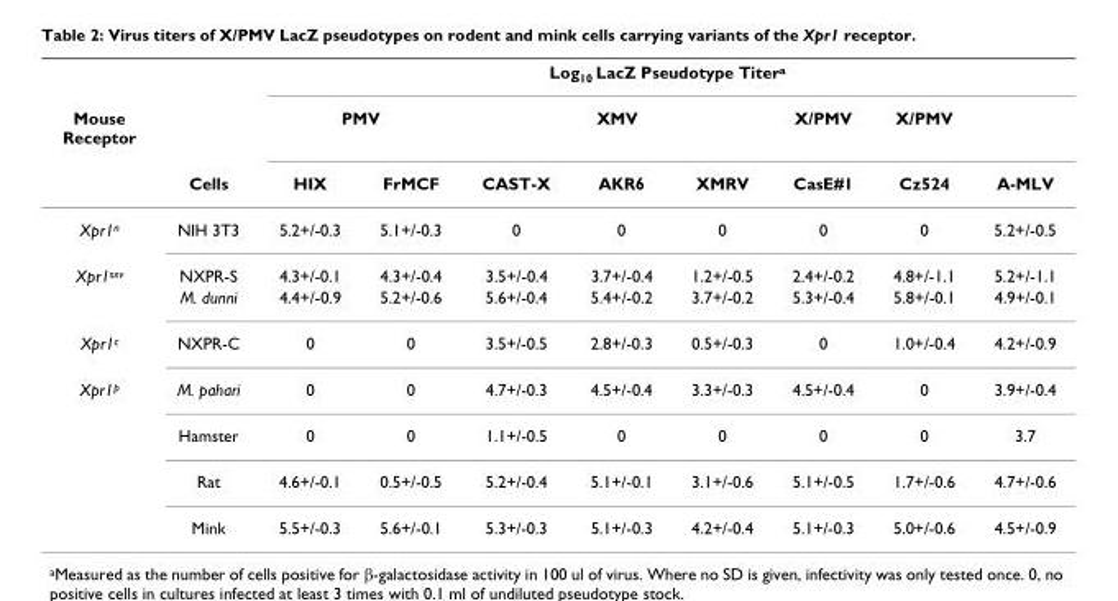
<table><thead><tr><td rowspan="3">Mouse Receptor</td><td rowspan="3">Cells</td><td colspan="8">Log<sub>10</sub> LacZ Pseudotype Titer<sup>a</sup></td></tr><tr><td colspan="2">PMV</td><td colspan="3">XMV</td><td rowspan="2">X/PMV CasE#1</td><td rowspan="2">X/PMV Cz524</td><td rowspan="2">A-MLV</td></tr><tr><td>HIX</td><td>FrMCF</td><td>CAST-X</td><td>AKR6</td><td>XMRV</td></tr></thead><tbody><tr><td>Xpr1<sup>n</sup></td><td>NIH 3T3</td><td>5.2+/-0.3</td><td>5.1+/-0.3</td><td>0</td><td>0</td><td>0</td><td>0</td><td>0</td><td>5.2+/-0.5</td></tr><tr><td rowspan="2">Xpr1<sup>sxv</sup></td><td>NXPR-S</td><td>4.3+/-0.1</td><td>4.3+/-0.4</td><td>3.5+/-0.4</td><td>3.7+/-0.4</td><td>1.2+/-0.5</td><td>2.4+/-0.2</td><td>4.8+/-1.1</td><td>5.2+/-1.1</td></tr><tr><td>M. dunni</td><td>4.4+/-0.9</td><td>5.2+/-0.6</td><td>5.6+/-0.4</td><td>5.4+/-0.2</td><td>3.7+/-0.2</td><td>5.3+/-0.4</td><td>5.8+/-0.1</td><td>4.9+/-0.1</td></tr><tr><td>Xpr1<sup>c</sup></td><td>NXPR-C</td><td>0</td><td>0</td><td>3.5+/-0.5</td><td>2.8+/-0.3</td><td>0.5+/-0.3</td><td>0</td><td>1.0+/-0.4</td><td>4.2+/-0.9</td></tr><tr><td rowspan="4">Xpr1<sup>p</sup></td><td>M. pahari</td><td>0</td><td>0</td><td>4.7+/-0.3</td><td>4.5+/-0.4</td><td>3.3+/-0.3</td><td>4.5+/-0.4</td><td>0</td><td>3.9+/-0.4</td></tr><tr><td>Hamster</td><td>0</td><td>0</td><td>1.1+/-0.5</td><td>0</td><td>0</td><td>0</td><td>0</td><td>3.7</td></tr><tr><td>Rat</td><td>4.6+/-0.1</td><td>0.5+/-0.5</td><td>5.2+/-0.4</td><td>5.1+/-0.1</td><td>3.1+/-0.6</td><td>5.1+/-0.5</td><td>1.7+/-0.6</td><td>4.7+/-0.6</td></tr><tr><td>Mink</td><td>5.5+/-0.3</td><td>5.6+/-0.1</td><td>5.3+/-0.3</td><td>5.1+/-0.3</td><td>4.2+/-0.4</td><td>5.1+/-0.3</td><td>5.0+/-0.6</td><td>4.5+/-0.9</td></tr></tbody></table>